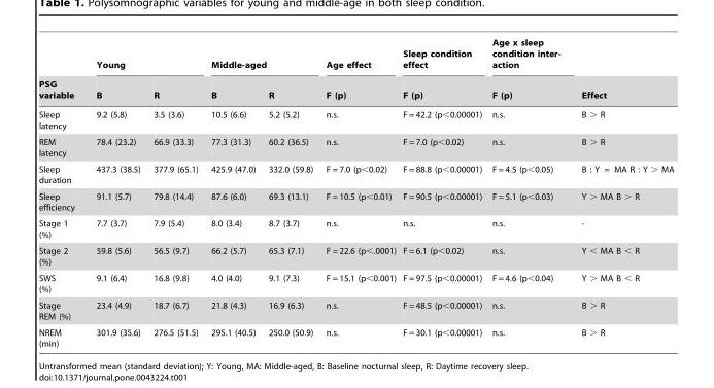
<table><thead><tr><td rowspan="2">PSG variable</td><td colspan="2">Young</td><td colspan="2">Middle-aged</td><td rowspan="2">Age effect F (p)</td><td rowspan="2">Sleep condition effect F (p)</td><td rowspan="2">Age x sleep condition inter- action F (p)</td><td rowspan="2">Effect</td></tr><tr><td>B</td><td>R</td><td>B</td><td>R</td></tr></thead><tbody><tr><td>Sleep latency</td><td>9.2 (5.8)</td><td>3.5 (3.6)</td><td>10.5 (6.6)</td><td>5.2 (5.2)</td><td>n.s.</td><td>F = 42.2 (p&lt;0.00001)</td><td>n.s.</td><td>B &gt; R</td></tr><tr><td>REM latency</td><td>78.4 (23.2)</td><td>66.9 (33.3)</td><td>77.3 (31.3)</td><td>60.2 (36.5)</td><td>n.s.</td><td>F = 7.0 (p&lt;0.02)</td><td>n.s.</td><td>B &gt; R</td></tr><tr><td>Sleep duration</td><td>437.3 (38.5)</td><td>377.9 (65.1)</td><td>425.9 (47.0)</td><td>332.0 (59.8)</td><td>F = 7.0 (p&lt;0.02)</td><td>F = 88.8 (p&lt;0.00001)</td><td>F = 4.5 (p&lt;0.05)</td><td>B : Y = MA R : Y &gt; MA</td></tr><tr><td>Sleep efficiency</td><td>91.1 (5.7)</td><td>79.8 (14.4)</td><td>87.6 (6.0)</td><td>69.3 (13.1)</td><td>F = 10.5 (p&lt;0.01)</td><td>F = 90.5 (p&lt;0.00001)</td><td>F = 5.1 (p&lt;0.03)</td><td>Y &gt; MA B &gt; R</td></tr><tr><td>Stage 1 (%)</td><td>7.7 (3.7)</td><td>7.9 (5.4)</td><td>8.0 (3.4)</td><td>8.7 (3.7)</td><td>n.s.</td><td>n.s.</td><td>n.s.</td><td>-</td></tr><tr><td>Stage 2 (%)</td><td>59.8 (5.6)</td><td>56.5 (9.7)</td><td>66.2 (5.7)</td><td>65.3 (7.1)</td><td>F = 22.6 (p&lt;.0001)</td><td>F = 6.1 (p&lt;0.02)</td><td>n.s.</td><td>Y &lt; MA B &lt; R</td></tr><tr><td>SWS (%)</td><td>9.1 (6.4)</td><td>16.8 (9.8)</td><td>4.0 (4.0)</td><td>9.1 (7.3)</td><td>F = 15.1 (p&lt;0.001)</td><td>F = 97.5 (p&lt;0.00001)</td><td>F = 4.6 (p&lt;0.04)</td><td>Y &gt; MA B &lt; R</td></tr><tr><td>Stage REM (%)</td><td>23.4 (4.9)</td><td>18.7 (6.7)</td><td>21.8 (4.3)</td><td>16.9 (6.3)</td><td>n.s.</td><td>F = 48.5 (p&lt;0.00001)</td><td>n.s.</td><td>B &gt; R</td></tr><tr><td>NREM (min)</td><td>301.9 (35.6)</td><td>276.5 (51.5)</td><td>295.1 (40.5)</td><td>250.0 (50.9)</td><td>n.s.</td><td>F = 30.1 (p&lt;0.00001)</td><td>n.s.</td><td>B &gt; R</td></tr></tbody></table>